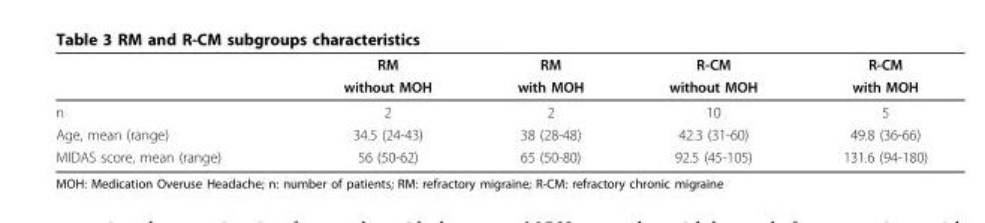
<table><thead><tr><td rowspan="2"></td><td rowspan="2">RM without MOH</td><td rowspan="2">RM with MOH</td><td rowspan="2">R-CM without MOH</td><td rowspan="2">R-CM with MOH</td></tr><tr></tr></thead><tbody><tr><td>n</td><td>2</td><td>2</td><td>10</td><td>5</td></tr><tr><td>Age, mean (range)</td><td>34.5 (24-43)</td><td>38 (28-48)</td><td>42.3 (31-60)</td><td>49.8 (36-66)</td></tr><tr><td>MIDAS score, mean (range)</td><td>56 (50-62)</td><td>65 (50-80)</td><td>92.5 (45-105)</td><td>131.6 (94-180)</td></tr></tbody></table>